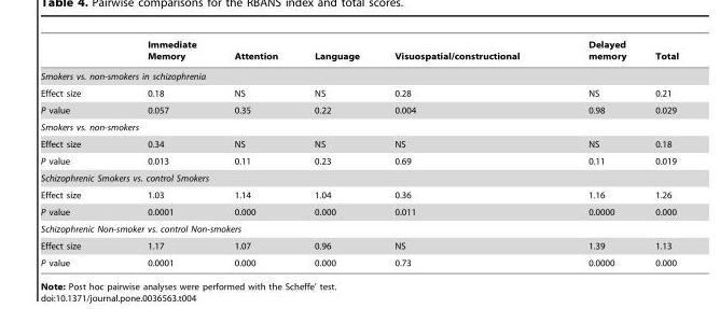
<table><thead><tr><td></td><td>Immediate Memory</td><td>Attention</td><td>Language</td><td>Visuospatial/constructional</td><td>Delayed memory</td><td>Total</td></tr></thead><tbody><tr><td colspan="7">Smokers vs. non-smokers in schizophrenia</td></tr><tr><td>Effect size</td><td>0.18</td><td>NS</td><td>NS</td><td>0.28</td><td>NS</td><td>0.21</td></tr><tr><td>P value</td><td>0.057</td><td>0.35</td><td>0.22</td><td>0.004</td><td>0.98</td><td>0.029</td></tr><tr><td colspan="7">Smokers vs. non-smokers</td></tr><tr><td>Effect size</td><td>0.34</td><td>NS</td><td>NS</td><td>NS</td><td>NS</td><td>0.18</td></tr><tr><td>P value</td><td>0.013</td><td>0.11</td><td>0.23</td><td>0.69</td><td>0.11</td><td>0.019</td></tr><tr><td colspan="7">Schizophrenic Smokers vs. control Smokers</td></tr><tr><td>Effect size</td><td>1.03</td><td>1.14</td><td>1.04</td><td>0.36</td><td>1.16</td><td>1.26</td></tr><tr><td>P value</td><td>0.0001</td><td>0.000</td><td>0.000</td><td>0.011</td><td>0.0000</td><td>0.000</td></tr><tr><td colspan="7">Schizophrenic Non-smoker vs. control Non-smokers</td></tr><tr><td>Effect size</td><td>1.17</td><td>1.07</td><td>0.96</td><td>NS</td><td>1.39</td><td>1.13</td></tr><tr><td>P value</td><td>0.0001</td><td>0.000</td><td>0.000</td><td>0.73</td><td>0.0000</td><td>0.000</td></tr></tbody></table>